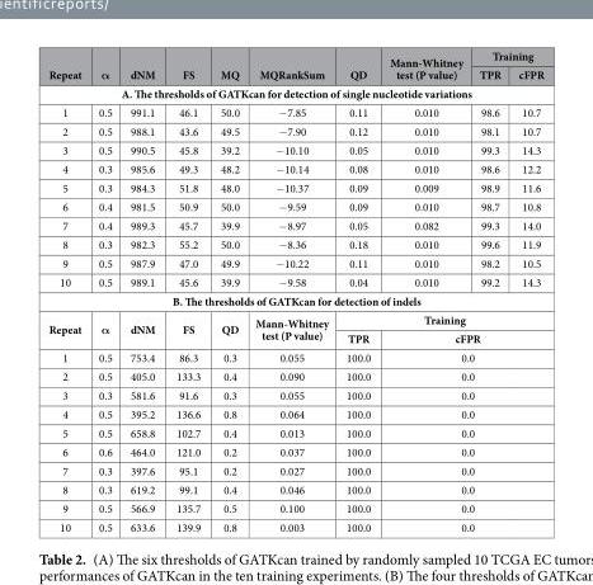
<table><thead><tr><td rowspan="2">Repeat</td><td rowspan="2">α</td><td rowspan="2">dNM</td><td rowspan="2">FS</td><td rowspan="2">MQ</td><td rowspan="2">MQRankSum</td><td rowspan="2">QD</td><td rowspan="2">Mann-Whitney test (P value)</td><td colspan="2">Training</td></tr><tr><td>TPR</td><td>cFPR</td></tr></thead><tbody><tr><td colspan="10">A. The thresholds of GATKcan for detection of single nucleotide variations</td></tr><tr><td>1</td><td>0.5</td><td>991.1</td><td>46.1</td><td>50.0</td><td>−7.85</td><td>0.11</td><td>0.010</td><td>98.6</td><td>10.7</td></tr><tr><td>2</td><td>0.5</td><td>988.1</td><td>43.6</td><td>49.5</td><td>−7.90</td><td>0.12</td><td>0.010</td><td>98.1</td><td>10.7</td></tr><tr><td>3</td><td>0.5</td><td>990.5</td><td>45.8</td><td>39.2</td><td>−10.10</td><td>0.05</td><td>0.010</td><td>99.3</td><td>14.3</td></tr><tr><td>4</td><td>0.3</td><td>985.6</td><td>49.3</td><td>48.2</td><td>−10.14</td><td>0.08</td><td>0.010</td><td>98.6</td><td>12.2</td></tr><tr><td>5</td><td>0.3</td><td>984.3</td><td>51.8</td><td>48.0</td><td>−10.37</td><td>0.09</td><td>0.009</td><td>98.9</td><td>11.6</td></tr><tr><td>6</td><td>0.4</td><td>981.5</td><td>50.9</td><td>50.0</td><td>−9.59</td><td>0.09</td><td>0.010</td><td>98.7</td><td>10.8</td></tr><tr><td>7</td><td>0.4</td><td>989.3</td><td>45.7</td><td>39.9</td><td>−8.97</td><td>0.05</td><td>0.082</td><td>99.3</td><td>14.0</td></tr><tr><td>8</td><td>0.3</td><td>982.3</td><td>55.2</td><td>50.0</td><td>−8.36</td><td>0.18</td><td>0.010</td><td>99.6</td><td>11.9</td></tr><tr><td>9</td><td>0.5</td><td>987.9</td><td>47.0</td><td>49.9</td><td>−10.22</td><td>0.11</td><td>0.010</td><td>98.2</td><td>10.5</td></tr><tr><td>10</td><td>0.5</td><td>989.1</td><td>45.6</td><td>39.9</td><td>−9.58</td><td>0.04</td><td>0.010</td><td>99.2</td><td>14.3</td></tr><tr><td colspan="10">B. The thresholds of GATKcan for detection of indels</td></tr><tr><td rowspan="2">Repeat</td><td rowspan="2">α</td><td rowspan="2">dNM</td><td rowspan="2">FS</td><td rowspan="2">QD</td><td rowspan="2">Mann-Whitney test (P value)</td><td colspan="4">Training</td></tr><tr><td>TPR</td><td colspan="3">cFPR</td></tr><tr><td>1</td><td>0.5</td><td>753.4</td><td>86.3</td><td>0.3</td><td>0.055</td><td>100.0</td><td colspan="3">0.0</td></tr><tr><td>2</td><td>0.5</td><td>405.0</td><td>133.3</td><td>0.4</td><td>0.090</td><td>100.0</td><td colspan="3">0.0</td></tr><tr><td>3</td><td>0.3</td><td>581.6</td><td>91.6</td><td>0.3</td><td>0.055</td><td>100.0</td><td colspan="3">0.0</td></tr><tr><td>4</td><td>0.5</td><td>395.2</td><td>136.6</td><td>0.8</td><td>0.064</td><td>100.0</td><td colspan="3">0.0</td></tr><tr><td>5</td><td>0.5</td><td>658.8</td><td>102.7</td><td>0.4</td><td>0.013</td><td>100.0</td><td colspan="3">0.0</td></tr><tr><td>6</td><td>0.6</td><td>464.0</td><td>121.0</td><td>0.2</td><td>0.037</td><td>100.0</td><td colspan="3">0.0</td></tr><tr><td>7</td><td>0.3</td><td>397.6</td><td>95.1</td><td>0.2</td><td>0.027</td><td>100.0</td><td colspan="3">0.0</td></tr><tr><td>8</td><td>0.3</td><td>619.2</td><td>99.1</td><td>0.4</td><td>0.046</td><td>100.0</td><td colspan="3">0.0</td></tr><tr><td>9</td><td>0.5</td><td>566.9</td><td>135.7</td><td>0.5</td><td>0.100</td><td>100.0</td><td colspan="3">0.0</td></tr><tr><td>10</td><td>0.5</td><td>633.6</td><td>139.9</td><td>0.8</td><td>0.003</td><td>100.0</td><td colspan="3">0.0</td></tr></tbody></table>